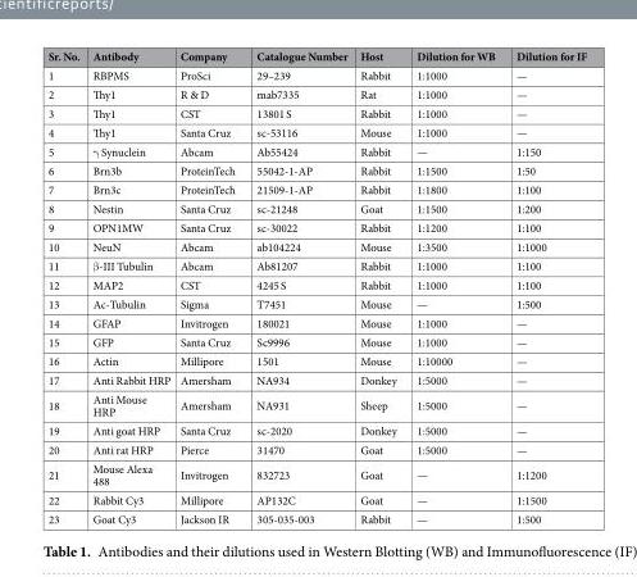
<table><thead><tr><td>Sr. No.</td><td>Antibody</td><td>Company</td><td>Catalogue Number</td><td>Host</td><td>Dilution for WB</td><td>Dilution for IF</td></tr></thead><tbody><tr><td>1</td><td>RBPMS</td><td>ProSci</td><td>29–239</td><td>Rabbit</td><td>1:1000</td><td>—</td></tr><tr><td>2</td><td>Thy1</td><td>R &amp; D</td><td>mab7335</td><td>Rat</td><td>1:1000</td><td>—</td></tr><tr><td>3</td><td>Thy1</td><td>CST</td><td>13801 S</td><td>Rabbit</td><td>1:1000</td><td>—</td></tr><tr><td>4</td><td>Thy1</td><td>Santa Cruz</td><td>sc-53116</td><td>Mouse</td><td>1:1000</td><td>—</td></tr><tr><td>5</td><td>γ Synuclein</td><td>Abcam</td><td>Ab55424</td><td>Rabbit</td><td>—</td><td>1:150</td></tr><tr><td>6</td><td>Brn3b</td><td>ProteinTech</td><td>55042-1-AP</td><td>Rabbit</td><td>1:1500</td><td>1:50</td></tr><tr><td>7</td><td>Brn3c</td><td>ProteinTech</td><td>21509-1-AP</td><td>Rabbit</td><td>1:1800</td><td>1:100</td></tr><tr><td>8</td><td>Nestin</td><td>Santa Cruz</td><td>sc-21248</td><td>Goat</td><td>1:1500</td><td>1:200</td></tr><tr><td>9</td><td>OPN1MW</td><td>Santa Cruz</td><td>sc-30022</td><td>Rabbit</td><td>1:1200</td><td>1:100</td></tr><tr><td>10</td><td>NeuN</td><td>Abcam</td><td>ab104224</td><td>Mouse</td><td>1:3500</td><td>1:1000</td></tr><tr><td>11</td><td>β-III Tubulin</td><td>Abcam</td><td>Ab81207</td><td>Rabbit</td><td>1:1000</td><td>1:100</td></tr><tr><td>12</td><td>MAP2</td><td>CST</td><td>4245 S</td><td>Rabbit</td><td>1:1000</td><td>1:100</td></tr><tr><td>13</td><td>Ac-Tubulin</td><td>Sigma</td><td>T7451</td><td>Mouse</td><td>—</td><td>1:500</td></tr><tr><td>14</td><td>GFAP</td><td>Invitrogen</td><td>180021</td><td>Mouse</td><td>1:1000</td><td>—</td></tr><tr><td>15</td><td>GFP</td><td>Santa Cruz</td><td>Sc9996</td><td>Mouse</td><td>1:1000</td><td>—</td></tr><tr><td>16</td><td>Actin</td><td>Millipore</td><td>1501</td><td>Mouse</td><td>1:10000</td><td>—</td></tr><tr><td>17</td><td>Anti Rabbit HRP</td><td>Amersham</td><td>NA934</td><td>Donkey</td><td>1:5000</td><td>—</td></tr><tr><td>18</td><td>Anti Mouse HRP</td><td>Amersham</td><td>NA931</td><td>Sheep</td><td>1:5000</td><td>—</td></tr><tr><td>19</td><td>Anti goat HRP</td><td>Santa Cruz</td><td>sc-2020</td><td>Donkey</td><td>1:5000</td><td>—</td></tr><tr><td>20</td><td>Anti rat HRP</td><td>Pierce</td><td>31470</td><td>Goat</td><td>1:5000</td><td>—</td></tr><tr><td>21</td><td>Mouse Alexa 488</td><td>Invitrogen</td><td>832723</td><td>Goat</td><td>—</td><td>1:1200</td></tr><tr><td>22</td><td>Rabbit Cy3</td><td>Millipore</td><td>AP132C</td><td>Goat</td><td>—</td><td>1:1500</td></tr><tr><td>23</td><td>Goat Cy3</td><td>Jackson IR</td><td>305-035-003</td><td>Rabbit</td><td>—</td><td>1:500</td></tr></tbody></table>